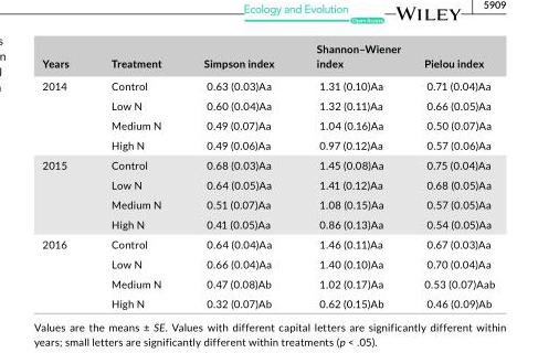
<table><thead><tr><td>Years</td><td>Treatment</td><td>Simpson index</td><td>Shannon–Wiener index</td><td>Pielou index</td></tr></thead><tbody><tr><td rowspan="4">2014</td><td>Control</td><td>0.63 (0.03)Aa</td><td>1.31 (0.10)Aa</td><td>0.71 (0.04)Aa</td></tr><tr><td>Low N</td><td>0.60 (0.04)Aa</td><td>1.32 (0.11)Aa</td><td>0.66 (0.05)Aa</td></tr><tr><td>Medium N</td><td>0.49 (0.07)Aa</td><td>1.04 (0.16)Aa</td><td>0.50 (0.07)Aa</td></tr><tr><td>High N</td><td>0.49 (0.06)Aa</td><td>0.97 (0.12)Aa</td><td>0.57 (0.06)Aa</td></tr><tr><td rowspan="4">2015</td><td>Control</td><td>0.68 (0.03)Aa</td><td>1.45 (0.08)Aa</td><td>0.75 (0.04)Aa</td></tr><tr><td>Low N</td><td>0.64 (0.05)Aa</td><td>1.41 (0.12)Aa</td><td>0.68 (0.05)Aa</td></tr><tr><td>Medium N</td><td>0.51 (0.07)Aa</td><td>1.08 (0.15)Aa</td><td>0.57 (0.05)Aa</td></tr><tr><td>High N</td><td>0.41 (0.05)Aa</td><td>0.86 (0.13)Aa</td><td>0.54 (0.05)Aa</td></tr><tr><td rowspan="4">2016</td><td>Control</td><td>0.64 (0.04)Aa</td><td>1.46 (0.11)Aa</td><td>0.67 (0.03)Aa</td></tr><tr><td>Low N</td><td>0.66 (0.04)Aa</td><td>1.40 (0.10)Aa</td><td>0.70 (0.04)Aa</td></tr><tr><td>Medium N</td><td>0.47 (0.08)Ab</td><td>1.02 (0.17)Aa</td><td>0.53 (0.07)Aab</td></tr><tr><td>High N</td><td>0.32 (0.07)Ab</td><td>0.62 (0.15)Ab</td><td>0.46 (0.09)Ab</td></tr></tbody></table>